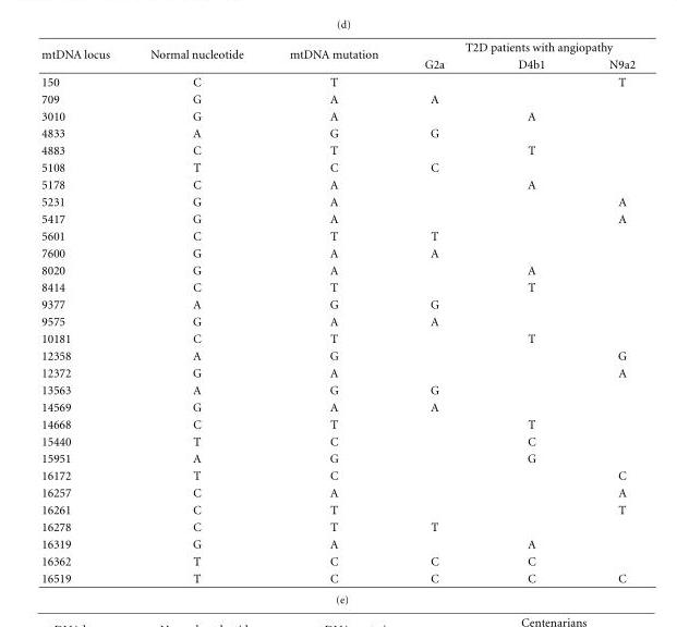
<table><thead><tr><td rowspan="2">mtDNA locus</td><td rowspan="2">Normal nucleotide</td><td rowspan="2">mtDNA mutation</td><td colspan="3">T2D patients with angiopathy</td></tr><tr><td>G2a</td><td>D4b1</td><td>N9a2</td></tr></thead><tbody><tr><td>150</td><td>C</td><td>T</td><td></td><td></td><td>T</td></tr><tr><td>709</td><td>G</td><td>A</td><td>A</td><td></td><td></td></tr><tr><td>3010</td><td>G</td><td>A</td><td></td><td>A</td><td></td></tr><tr><td>4833</td><td>A</td><td>G</td><td>G</td><td></td><td></td></tr><tr><td>4883</td><td>C</td><td>T</td><td></td><td>T</td><td></td></tr><tr><td>5108</td><td>T</td><td>C</td><td>C</td><td></td><td></td></tr><tr><td>5178</td><td>C</td><td>A</td><td></td><td>A</td><td></td></tr><tr><td>5231</td><td>G</td><td>A</td><td></td><td></td><td>A</td></tr><tr><td>5417</td><td>G</td><td>A</td><td></td><td></td><td>A</td></tr><tr><td>5601</td><td>C</td><td>T</td><td>T</td><td></td><td></td></tr><tr><td>7600</td><td>G</td><td>A</td><td>A</td><td></td><td></td></tr><tr><td>8020</td><td>G</td><td>A</td><td></td><td>A</td><td></td></tr><tr><td>8414</td><td>C</td><td>T</td><td></td><td>T</td><td></td></tr><tr><td>9377</td><td>A</td><td>G</td><td>G</td><td></td><td></td></tr><tr><td>9575</td><td>G</td><td>A</td><td>A</td><td></td><td></td></tr><tr><td>10181</td><td>C</td><td>T</td><td></td><td>T</td><td></td></tr><tr><td>12358</td><td>A</td><td>G</td><td></td><td></td><td>G</td></tr><tr><td>12372</td><td>G</td><td>A</td><td></td><td></td><td>A</td></tr><tr><td>13563</td><td>A</td><td>G</td><td>G</td><td></td><td></td></tr><tr><td>14569</td><td>G</td><td>A</td><td>A</td><td></td><td></td></tr><tr><td>14668</td><td>C</td><td>T</td><td></td><td>T</td><td></td></tr><tr><td>15440</td><td>T</td><td>C</td><td></td><td>C</td><td></td></tr><tr><td>15951</td><td>A</td><td>G</td><td></td><td>G</td><td></td></tr><tr><td>16172</td><td>T</td><td>C</td><td></td><td></td><td>C</td></tr><tr><td>16257</td><td>C</td><td>A</td><td></td><td></td><td>A</td></tr><tr><td>16261</td><td>C</td><td>T</td><td></td><td></td><td>T</td></tr><tr><td>16278</td><td>C</td><td>T</td><td>T</td><td></td><td></td></tr><tr><td>16319</td><td>G</td><td>A</td><td></td><td>A</td><td></td></tr><tr><td>16362</td><td>T</td><td>C</td><td>C</td><td>C</td><td></td></tr><tr><td>16519</td><td>T</td><td>C</td><td>C</td><td>C</td><td>C</td></tr></tbody></table>